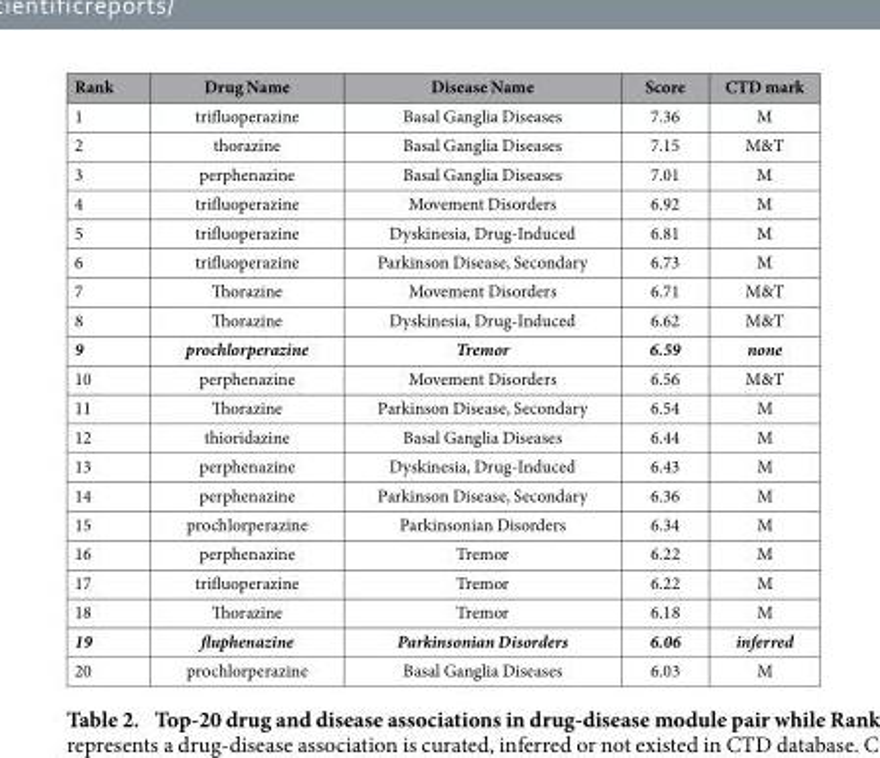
<table><thead><tr><td>Rank</td><td>Drug Name</td><td>Disease Name</td><td>Score</td><td>CTD mark</td></tr></thead><tbody><tr><td>1</td><td>trifluoperazine</td><td>Basal Ganglia Diseases</td><td>7.36</td><td>M</td></tr><tr><td>2</td><td>thorazine</td><td>Basal Ganglia Diseases</td><td>7.15</td><td>M&amp;T</td></tr><tr><td>3</td><td>perphenazine</td><td>Basal Ganglia Diseases</td><td>7.01</td><td>M</td></tr><tr><td>4</td><td>trifluoperazine</td><td>Movement Disorders</td><td>6.92</td><td>M</td></tr><tr><td>5</td><td>trifluoperazine</td><td>Dyskinesia, Drug-Induced</td><td>6.81</td><td>M</td></tr><tr><td>6</td><td>trifluoperazine</td><td>Parkinson Disease, Secondary</td><td>6.73</td><td>M</td></tr><tr><td>7</td><td>Thorazine</td><td>Movement Disorders</td><td>6.71</td><td>M&amp;T</td></tr><tr><td>8</td><td>Thorazine</td><td>Dyskinesia, Drug-Induced</td><td>6.62</td><td>M&amp;T</td></tr><tr><td>9</td><td>prochlorperazine</td><td>Tremor</td><td>6.59</td><td>none</td></tr><tr><td>10</td><td>perphenazine</td><td>Movement Disorders</td><td>6.56</td><td>M&amp;T</td></tr><tr><td>11</td><td>Thorazine</td><td>Parkinson Disease, Secondary</td><td>6.54</td><td>M</td></tr><tr><td>12</td><td>thioridazine</td><td>Basal Ganglia Diseases</td><td>6.44</td><td>M</td></tr><tr><td>13</td><td>perphenazine</td><td>Dyskinesia, Drug-Induced</td><td>6.43</td><td>M</td></tr><tr><td>14</td><td>perphenazine</td><td>Parkinson Disease, Secondary</td><td>6.36</td><td>M</td></tr><tr><td>15</td><td>prochlorperazine</td><td>Parkinsonian Disorders</td><td>6.34</td><td>M</td></tr><tr><td>16</td><td>perphenazine</td><td>Tremor</td><td>6.22</td><td>M</td></tr><tr><td>17</td><td>trifluoperazine</td><td>Tremor</td><td>6.22</td><td>M</td></tr><tr><td>18</td><td>Thorazine</td><td>Tremor</td><td>6.18</td><td>M</td></tr><tr><td>19</td><td>fluphenazine</td><td>Parkinsonian Disorders</td><td>6.06</td><td>inferred</td></tr><tr><td>20</td><td>prochlorperazine</td><td>Basal Ganglia Diseases</td><td>6.03</td><td>M</td></tr></tbody></table>